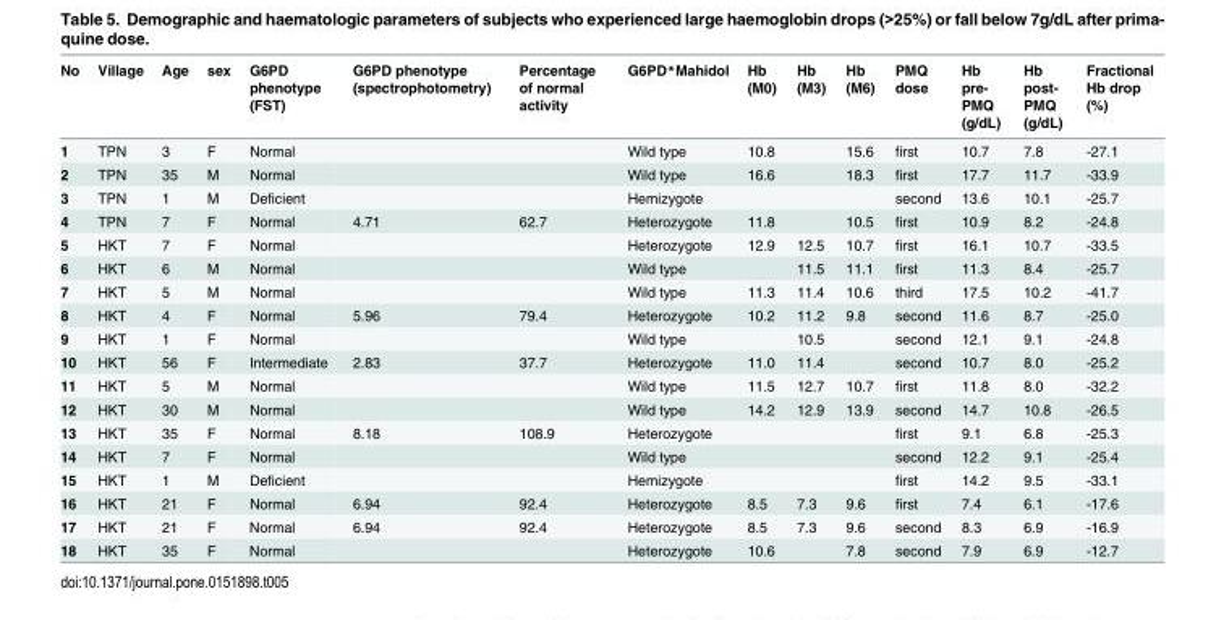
<table><thead><tr><td>No</td><td>Village</td><td>Age</td><td>sex</td><td>G6PD phenotype (FST)</td><td>G6PD phenotype (spectrophotometry)</td><td>Percentage of normal activity</td><td>G6PD*Mahidol</td><td>Hb (M0)</td><td>Hb (M3)</td><td>Hb (M6)</td><td>PMQ dose</td><td>Hb pre- PMQ (g/dL)</td><td>Hb post- PMQ (g/dL)</td><td>Fractional Hb drop (%)</td></tr></thead><tbody><tr><td>1</td><td>TPN</td><td>3</td><td>F</td><td>Normal</td><td></td><td></td><td>Wild type</td><td>10.8</td><td></td><td>15.6</td><td>first</td><td>10.7</td><td>7.8</td><td>-27.1</td></tr><tr><td>2</td><td>TPN</td><td>35</td><td>M</td><td>Normal</td><td></td><td></td><td>Wild type</td><td>16.6</td><td></td><td>18.3</td><td>first</td><td>17.7</td><td>11.7</td><td>-33.9</td></tr><tr><td>3</td><td>TPN</td><td>1</td><td>M</td><td>Deficient</td><td></td><td></td><td>Hemizygote</td><td></td><td></td><td></td><td>second</td><td>13.6</td><td>10.1</td><td>-25.7</td></tr><tr><td>4</td><td>TPN</td><td>7</td><td>F</td><td>Normal</td><td>4.71</td><td>62.7</td><td>Heterozygote</td><td>11.8</td><td></td><td>10.5</td><td>first</td><td>10.9</td><td>8.2</td><td>-24.8</td></tr><tr><td>5</td><td>HKT</td><td>7</td><td>F</td><td>Normal</td><td></td><td></td><td>Heterozygote</td><td>12.9</td><td>12.5</td><td>10.7</td><td>first</td><td>16.1</td><td>10.7</td><td>-33.5</td></tr><tr><td>6</td><td>HKT</td><td>6</td><td>M</td><td>Normal</td><td></td><td></td><td>Wild type</td><td></td><td>11.5</td><td>11.1</td><td>first</td><td>11.3</td><td>8.4</td><td>-25.7</td></tr><tr><td>7</td><td>HKT</td><td>5</td><td>M</td><td>Normal</td><td></td><td></td><td>Wild type</td><td>11.3</td><td>11.4</td><td>10.6</td><td>third</td><td>17.5</td><td>10.2</td><td>-41.7</td></tr><tr><td>8</td><td>HKT</td><td>4</td><td>F</td><td>Normal</td><td>5.96</td><td>79.4</td><td>Heterozygote</td><td>10.2</td><td>11.2</td><td>9.8</td><td>second</td><td>11.6</td><td>8.7</td><td>-25.0</td></tr><tr><td>9</td><td>HKT</td><td>1</td><td>F</td><td>Normal</td><td></td><td></td><td>Wild type</td><td></td><td>10.5</td><td></td><td>second</td><td>12.1</td><td>9.1</td><td>-24.8</td></tr><tr><td>10</td><td>HKT</td><td>56</td><td>F</td><td>Intermediate</td><td>2.83</td><td>37.7</td><td>Heterozygote</td><td>11.0</td><td>11.4</td><td></td><td>second</td><td>10.7</td><td>8.0</td><td>-25.2</td></tr><tr><td>11</td><td>HKT</td><td>5</td><td>M</td><td>Normal</td><td></td><td></td><td>Wild type</td><td>11.5</td><td>12.7</td><td>10.7</td><td>first</td><td>11.8</td><td>8.0</td><td>-32.2</td></tr><tr><td>12</td><td>HKT</td><td>30</td><td>M</td><td>Normal</td><td></td><td></td><td>Wild type</td><td>14.2</td><td>12.9</td><td>13.9</td><td>second</td><td>14.7</td><td>10.8</td><td>-26.5</td></tr><tr><td>13</td><td>HKT</td><td>35</td><td>F</td><td>Normal</td><td>8.18</td><td>108.9</td><td>Heterozygote</td><td></td><td></td><td></td><td>first</td><td>9.1</td><td>6.8</td><td>-25.3</td></tr><tr><td>14</td><td>HKT</td><td>7</td><td>F</td><td>Normal</td><td></td><td></td><td>Wild type</td><td></td><td></td><td></td><td>second</td><td>12.2</td><td>9.1</td><td>-25.4</td></tr><tr><td>15</td><td>HKT</td><td>1</td><td>M</td><td>Deficient</td><td></td><td></td><td>Hemizygote</td><td></td><td></td><td></td><td>first</td><td>14.2</td><td>9.5</td><td>-33.1</td></tr><tr><td>16</td><td>HKT</td><td>21</td><td>F</td><td>Normal</td><td>6.94</td><td>92.4</td><td>Heterozygote</td><td>8.5</td><td>7.3</td><td>9.6</td><td>first</td><td>7.4</td><td>6.1</td><td>-17.6</td></tr><tr><td>17</td><td>HKT</td><td>21</td><td>F</td><td>Normal</td><td>6.94</td><td>92.4</td><td>Heterozygote</td><td>8.5</td><td>7.3</td><td>9.6</td><td>second</td><td>8.3</td><td>6.9</td><td>-16.9</td></tr><tr><td>18</td><td>HKT</td><td>35</td><td>F</td><td>Normal</td><td></td><td></td><td>Heterozygote</td><td>10.6</td><td></td><td>7.8</td><td>second</td><td>7.9</td><td>6.9</td><td>-12.7</td></tr></tbody></table>